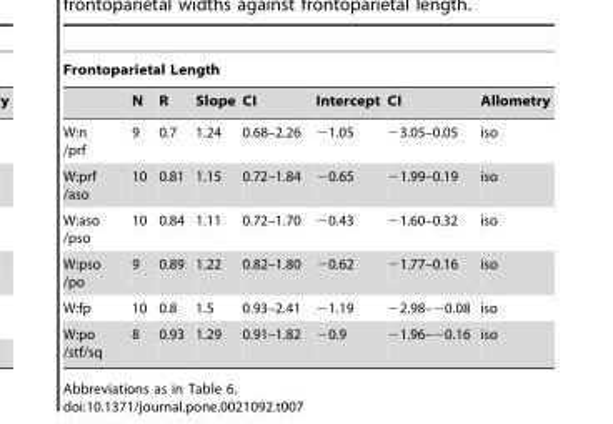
<table><thead><tr><td colspan="8">Frontoparietal Length</td></tr><tr><td></td><td>N</td><td>R</td><td>Slope</td><td>CI</td><td>Intercept</td><td>CI</td><td>Allometry</td></tr></thead><tbody><tr><td>W:n /prf</td><td>9</td><td>0.7</td><td>1.24</td><td>0.68–2.26</td><td>−1.05</td><td>−3.05–0.05</td><td>iso</td></tr><tr><td>W:prf /aso</td><td>10</td><td>0.81</td><td>1.15</td><td>0.72–1.84</td><td>−0.65</td><td>−1.99–0.19</td><td>iso</td></tr><tr><td>W:aso /pso</td><td>10</td><td>0.84</td><td>1.11</td><td>0.72–1.70</td><td>−0.43</td><td>−1.60–0.32</td><td>iso</td></tr><tr><td>W:pso /po</td><td>9</td><td>0.89</td><td>1.22</td><td>0.82–1.80</td><td>−0.62</td><td>−1.77–0.16</td><td>iso</td></tr><tr><td>W:fp</td><td>10</td><td>0.8</td><td>1.5</td><td>0.93–2.41</td><td>−1.19</td><td>−2.98–−0.08</td><td>iso</td></tr><tr><td>W:po /stf/sq</td><td>8</td><td>0.93</td><td>1.29</td><td>0.91–1.82</td><td>−0.9</td><td>−1.96–−0.16</td><td>iso</td></tr></tbody></table>